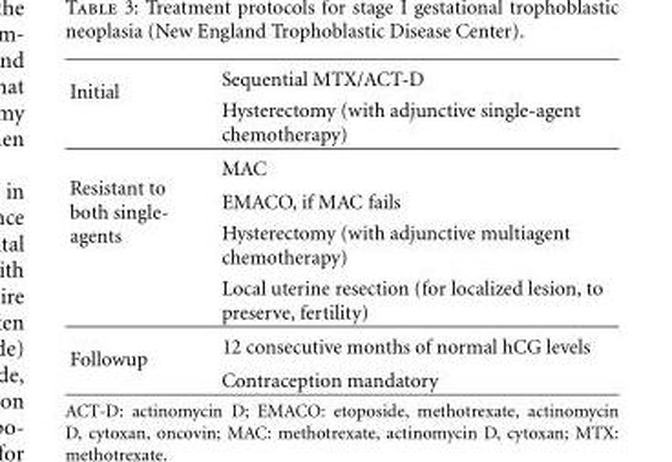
<table><tbody><tr><td rowspan="2">Initial</td><td>Sequential MTX/ACT-D</td></tr><tr><td>Hysterectomy (with adjunctive single-agent chemotherapy)</td></tr><tr><td rowspan="4">Resistant to both single- agents</td><td>MAC</td></tr><tr><td>EMACO, if MAC fails</td></tr><tr><td>Hysterectomy (with adjunctive multiagent chemotherapy)</td></tr><tr><td>Local uterine resection (for localized lesion, to preserve, fertility)</td></tr><tr><td rowspan="2">Followup</td><td>12 consecutive months of normal hCG levels</td></tr><tr><td>Contraception mandatory</td></tr></tbody></table>